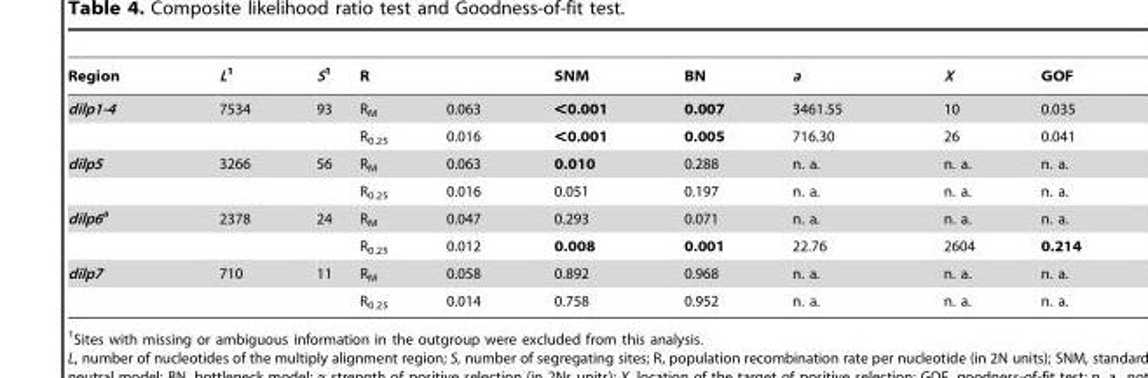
<table><thead><tr><td rowspan="2">Region dilp1-4</td><td rowspan="2">L1 7534</td><td rowspan="2">S1 93</td><td colspan="2">R</td><td rowspan="2">SNM &lt;0.001</td><td rowspan="2">BN 0.007</td><td rowspan="2">a 3461.55</td><td rowspan="2">X 10</td><td rowspan="2">GOF 0.035</td></tr><tr><td>R<sub>M</sub></td><td>0.063</td></tr></thead><tbody><tr><td></td><td></td><td></td><td>R<sub>0.25</sub></td><td>0.016</td><td>&lt;0.001</td><td>0.005</td><td>716.30</td><td>26</td><td>0.041</td></tr><tr><td rowspan="2">dilp5</td><td>3266</td><td>56</td><td>R<sub>M</sub></td><td>0.063</td><td>0.010</td><td>0.288</td><td>n. a.</td><td>n. a.</td><td>n. a.</td></tr><tr><td></td><td></td><td>R<sub>0.25</sub></td><td>0.016</td><td>0.051</td><td>0.197</td><td>n. a.</td><td>n. a.</td><td>n. a.</td></tr><tr><td rowspan="2">dilp6<sup>a</sup></td><td>2378</td><td>24</td><td>R<sub>M</sub></td><td>0.047</td><td>0.293</td><td>0.071</td><td>n. a.</td><td>n. a.</td><td>n. a.</td></tr><tr><td></td><td></td><td>R<sub>0.25</sub></td><td>0.012</td><td>0.008</td><td>0.001</td><td>22.76</td><td>2604</td><td>0.214</td></tr><tr><td rowspan="2">dilp7</td><td>710</td><td>11</td><td>R<sub>M</sub></td><td>0.058</td><td>0.892</td><td>0.968</td><td>n. a.</td><td>n. a.</td><td>n. a.</td></tr><tr><td></td><td></td><td>R<sub>0.25</sub></td><td>0.014</td><td>0.758</td><td>0.952</td><td>n. a.</td><td>n. a.</td><td>n. a.</td></tr></tbody></table>